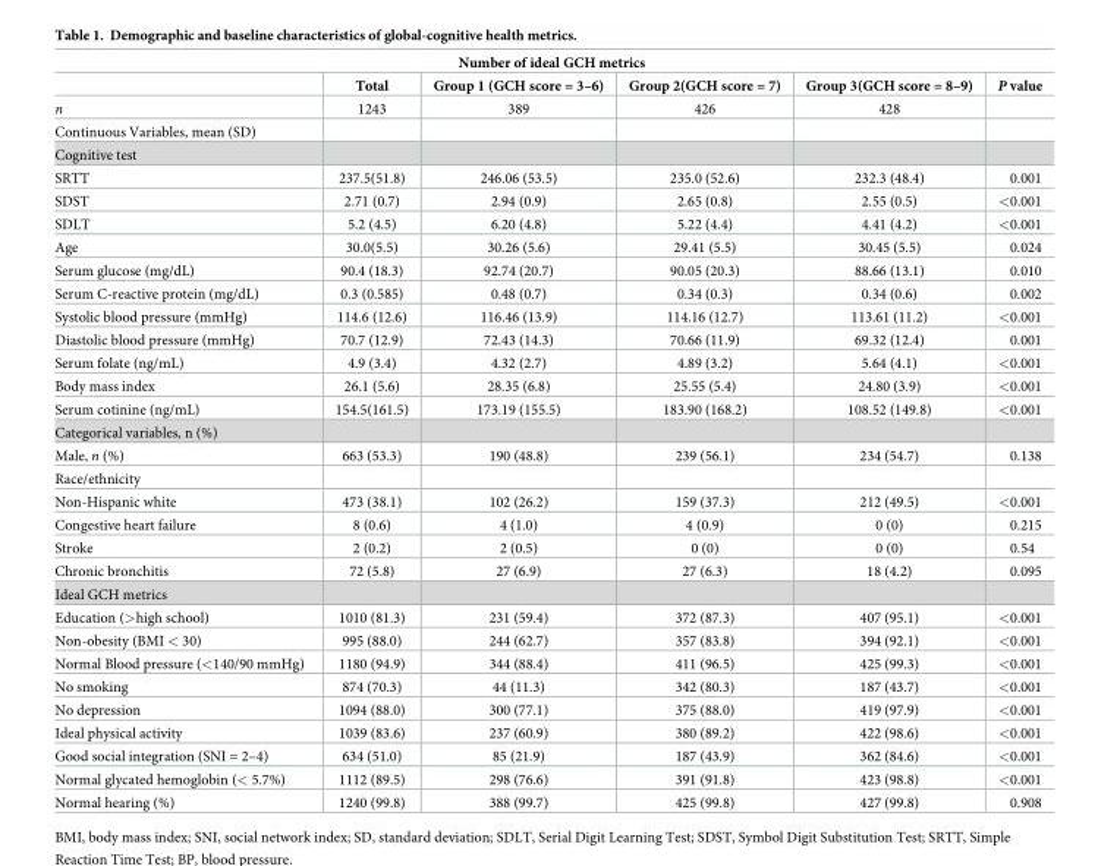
<table><thead><tr><td colspan="6">Number of ideal GCH metrics</td></tr><tr><td></td><td>Total</td><td>Group 1 (GCH score = 3–6)</td><td>Group 2(GCH score = 7)</td><td>Group 3(GCH score = 8–9)</td><td>P value</td></tr></thead><tbody><tr><td>n</td><td>1243</td><td>389</td><td>426</td><td>428</td><td></td></tr><tr><td colspan="6">Continuous Variables, mean (SD)</td></tr><tr><td colspan="6">Cognitive test</td></tr><tr><td>SRTT</td><td>237.5(51.8)</td><td>246.06 (53.5)</td><td>235.0 (52.6)</td><td>232.3 (48.4)</td><td>0.001</td></tr><tr><td>SDST</td><td>2.71 (0.7)</td><td>2.94 (0.9)</td><td>2.65 (0.8)</td><td>2.55 (0.5)</td><td>&lt;0.001</td></tr><tr><td>SDLT</td><td>5.2 (4.5)</td><td>6.20 (4.8)</td><td>5.22 (4.4)</td><td>4.41 (4.2)</td><td>&lt;0.001</td></tr><tr><td>Age</td><td>30.0(5.5)</td><td>30.26 (5.6)</td><td>29.41 (5.5)</td><td>30.45 (5.5)</td><td>0.024</td></tr><tr><td>Serum glucose (mg/dL)</td><td>90.4 (18.3)</td><td>92.74 (20.7)</td><td>90.05 (20.3)</td><td>88.66 (13.1)</td><td>0.010</td></tr><tr><td>Serum C-reactive protein (mg/dL)</td><td>0.3 (0.585)</td><td>0.48 (0.7)</td><td>0.34 (0.3)</td><td>0.34 (0.6)</td><td>0.002</td></tr><tr><td>Systolic blood pressure (mmHg)</td><td>114.6 (12.6)</td><td>116.46 (13.9)</td><td>114.16 (12.7)</td><td>113.61 (11.2)</td><td>&lt;0.001</td></tr><tr><td>Diastolic blood pressure (mmHg)</td><td>70.7 (12.9)</td><td>72.43 (14.3)</td><td>70.66 (11.9)</td><td>69.32 (12.4)</td><td>0.001</td></tr><tr><td>Serum folate (ng/mL)</td><td>4.9 (3.4)</td><td>4.32 (2.7)</td><td>4.89 (3.2)</td><td>5.64 (4.1)</td><td>&lt;0.001</td></tr><tr><td>Body mass index</td><td>26.1 (5.6)</td><td>28.35 (6.8)</td><td>25.55 (5.4)</td><td>24.80 (3.9)</td><td>&lt;0.001</td></tr><tr><td>Serum cotinine (ng/mL)</td><td>154.5(161.5)</td><td>173.19 (155.5)</td><td>183.90 (168.2)</td><td>108.52 (149.8)</td><td>&lt;0.001</td></tr><tr><td colspan="6">Categorical variables, n (%)</td></tr><tr><td>Male, n (%)</td><td>663 (53.3)</td><td>190 (48.8)</td><td>239 (56.1)</td><td>234 (54.7)</td><td>0.138</td></tr><tr><td colspan="6">Race/ethnicity</td></tr><tr><td>Non-Hispanic white</td><td>473 (38.1)</td><td>102 (26.2)</td><td>159 (37.3)</td><td>212 (49.5)</td><td>&lt;0.001</td></tr><tr><td>Congestive heart failure</td><td>8 (0.6)</td><td>4 (1.0)</td><td>4 (0.9)</td><td>0 (0)</td><td>0.215</td></tr><tr><td>Stroke</td><td>2 (0.2)</td><td>2 (0.5)</td><td>0 (0)</td><td>0 (0)</td><td>0.54</td></tr><tr><td>Chronic bronchitis</td><td>72 (5.8)</td><td>27 (6.9)</td><td>27 (6.3)</td><td>18 (4.2)</td><td>0.095</td></tr><tr><td colspan="6">Ideal GCH metrics</td></tr><tr><td>Education (&gt;high school)</td><td>1010 (81.3)</td><td>231 (59.4)</td><td>372 (87.3)</td><td>407 (95.1)</td><td>&lt;0.001</td></tr><tr><td>Non-obesity (BMI &lt; 30)</td><td>995 (88.0)</td><td>244 (62.7)</td><td>357 (83.8)</td><td>394 (92.1)</td><td>&lt;0.001</td></tr><tr><td>Normal Blood pressure (&lt;140/90 mmHg)</td><td>1180 (94.9)</td><td>344 (88.4)</td><td>411 (96.5)</td><td>425 (99.3)</td><td>&lt;0.001</td></tr><tr><td>No smoking</td><td>874 (70.3)</td><td>44 (11.3)</td><td>342 (80.3)</td><td>187 (43.7)</td><td>&lt;0.001</td></tr><tr><td>No depression</td><td>1094 (88.0)</td><td>300 (77.1)</td><td>375 (88.0)</td><td>419 (97.9)</td><td>&lt;0.001</td></tr><tr><td>Ideal physical activity</td><td>1039 (83.6)</td><td>237 (60.9)</td><td>380 (89.2)</td><td>422 (98.6)</td><td>&lt;0.001</td></tr><tr><td>Good social integration (SNI = 2–4)</td><td>634 (51.0)</td><td>85 (21.9)</td><td>187 (43.9)</td><td>362 (84.6)</td><td>&lt;0.001</td></tr><tr><td>Normal glycated hemoglobin (&lt; 5.7%)</td><td>1112 (89.5)</td><td>298 (76.6)</td><td>391 (91.8)</td><td>423 (98.8)</td><td>&lt;0.001</td></tr><tr><td>Normal hearing (%)</td><td>1240 (99.8)</td><td>388 (99.7)</td><td>425 (99.8)</td><td>427 (99.8)</td><td>0.908</td></tr></tbody></table>